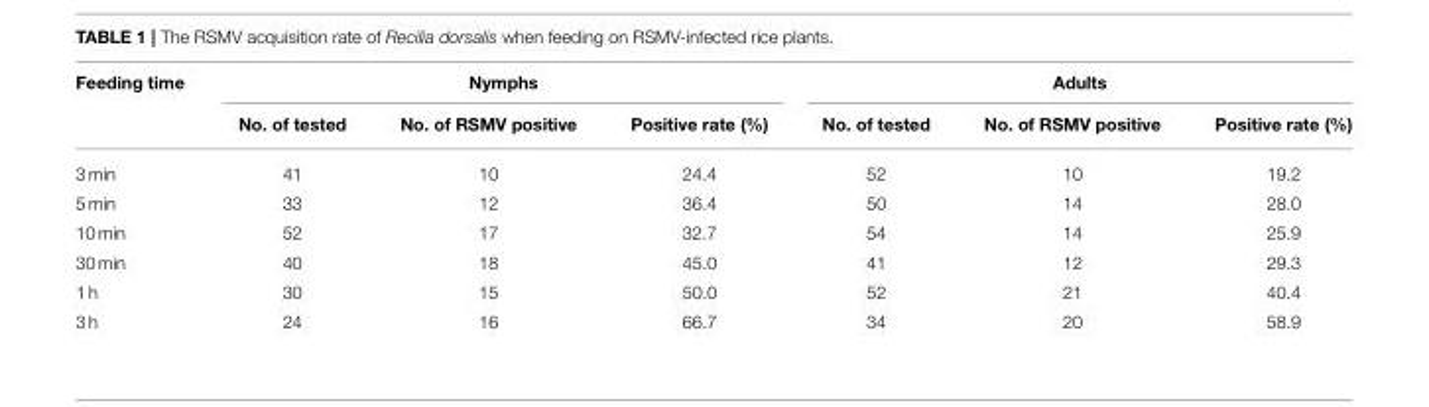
<table><thead><tr><td rowspan="2">Feeding time</td><td colspan="3">Nymphs</td><td colspan="3">Adults</td></tr><tr><td>No. of tested</td><td>No. of RSMV positive</td><td>Positive rate (%)</td><td>No. of tested</td><td>No. of RSMV positive</td><td>Positive rate (%)</td></tr></thead><tbody><tr><td>3 min</td><td>41</td><td>10</td><td>24.4</td><td>52</td><td>10</td><td>19.2</td></tr><tr><td>5 min</td><td>33</td><td>12</td><td>36.4</td><td>50</td><td>14</td><td>28.0</td></tr><tr><td>10 min</td><td>52</td><td>17</td><td>32.7</td><td>54</td><td>14</td><td>25.9</td></tr><tr><td>30 min</td><td>40</td><td>18</td><td>45.0</td><td>41</td><td>12</td><td>29.3</td></tr><tr><td>1 h</td><td>30</td><td>15</td><td>50.0</td><td>52</td><td>21</td><td>40.4</td></tr><tr><td>3 h</td><td>24</td><td>16</td><td>66.7</td><td>34</td><td>20</td><td>58.9</td></tr></tbody></table>